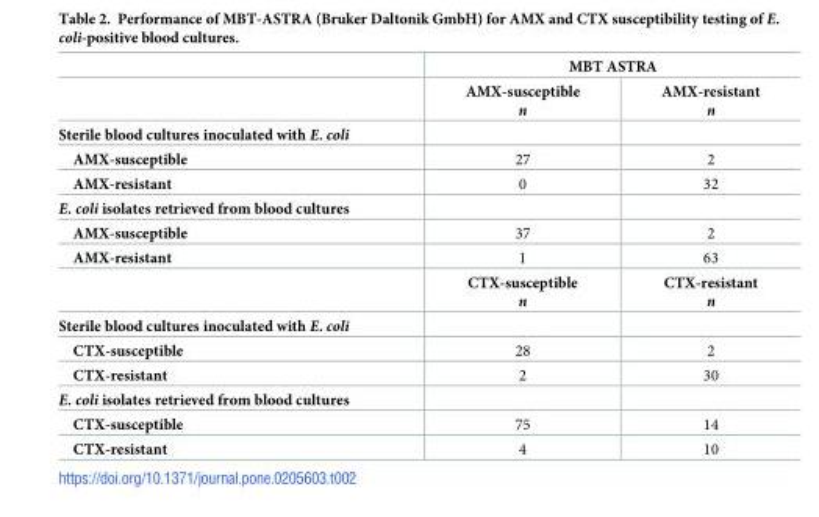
<table><thead><tr><td rowspan="2"></td><td colspan="2">MBT ASTRA</td></tr><tr><td>AMX-susceptible n</td><td>AMX-resistant n</td></tr></thead><tbody><tr><td colspan="3">Sterile blood cultures inoculated with E. coli</td></tr><tr><td>AMX-susceptible</td><td>27</td><td>2</td></tr><tr><td>AMX-resistant</td><td>0</td><td>32</td></tr><tr><td colspan="3">E. coli isolates retrieved from blood cultures</td></tr><tr><td>AMX-susceptible</td><td>37</td><td>2</td></tr><tr><td rowspan="2">AMX-resistant</td><td>1</td><td>63</td></tr><tr><td>CTX-susceptible n</td><td>CTX-resistant n</td></tr><tr><td colspan="3">Sterile blood cultures inoculated with E. coli</td></tr><tr><td>CTX-susceptible</td><td>28</td><td>2</td></tr><tr><td>CTX-resistant</td><td>2</td><td>30</td></tr><tr><td colspan="3">E. coli isolates retrieved from blood cultures</td></tr><tr><td>CTX-susceptible</td><td>75</td><td>14</td></tr><tr><td>CTX-resistant</td><td>4</td><td>10</td></tr></tbody></table>